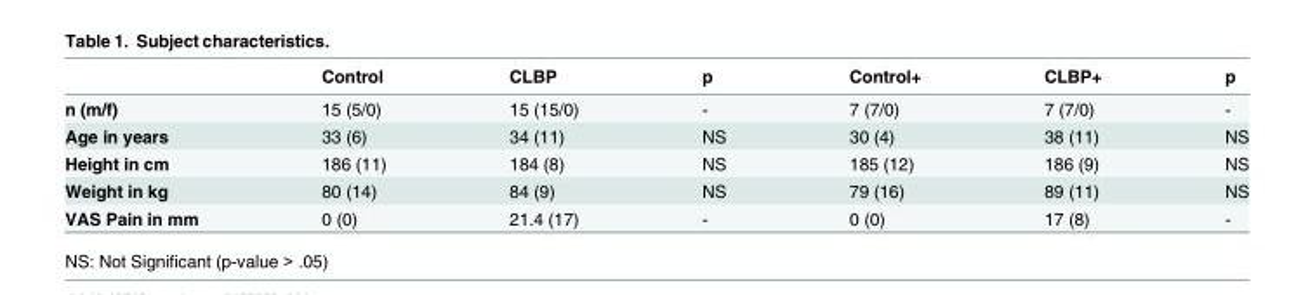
<table><thead><tr><td></td><td>Control</td><td>CLBP</td><td>p</td><td>Control+</td><td>CLBP+</td><td>p</td></tr></thead><tbody><tr><td>n (m/f)</td><td>15 (5/0)</td><td>15 (15/0)</td><td>-</td><td>7 (7/0)</td><td>7 (7/0)</td><td>-</td></tr><tr><td>Age in years</td><td>33 (6)</td><td>34 (11)</td><td>NS</td><td>30 (4)</td><td>38 (11)</td><td>NS</td></tr><tr><td>Height in cm</td><td>186 (11)</td><td>184 (8)</td><td>NS</td><td>185 (12)</td><td>186 (9)</td><td>NS</td></tr><tr><td>Weight in kg</td><td>80 (14)</td><td>84 (9)</td><td>NS</td><td>79 (16)</td><td>89 (11)</td><td>NS</td></tr><tr><td>VAS Pain in mm</td><td>0 (0)</td><td>21.4 (17)</td><td>-</td><td>0 (0)</td><td>17 (8)</td><td>-</td></tr></tbody></table>